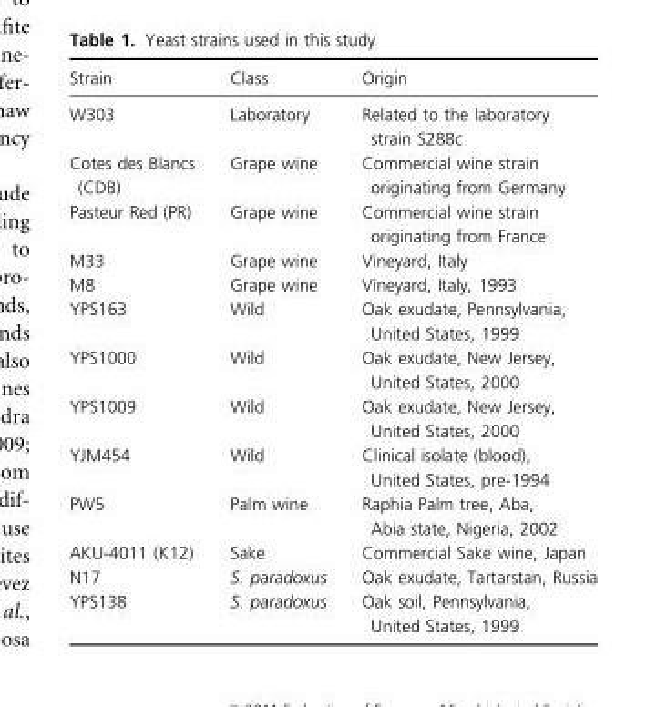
<table><thead><tr><td>Strain</td><td>Class</td><td>Origin</td></tr></thead><tbody><tr><td>W303</td><td>Laboratory</td><td>Related to the laboratory strain S288c</td></tr><tr><td>Cotes des Blancs (CDB)</td><td>Grape wine</td><td>Commercial wine strain originating from Germany</td></tr><tr><td>Pasteur Red (PR)</td><td>Grape wine</td><td>Commercial wine strain originating from France</td></tr><tr><td>M33</td><td>Grape wine</td><td>Vineyard, Italy</td></tr><tr><td>M8</td><td>Grape wine</td><td>Vineyard, Italy, 1993</td></tr><tr><td>YPS163</td><td>Wild</td><td>Oak exudate, Pennsylvania, United States, 1999</td></tr><tr><td>YPS1000</td><td>Wild</td><td>Oak exudate, New Jersey, United States, 2000</td></tr><tr><td>YPS1009</td><td>Wild</td><td>Oak exudate, New Jersey, United States, 2000</td></tr><tr><td>YJM454</td><td>Wild</td><td>Clinical isolate (blood), United States, pre-1994</td></tr><tr><td>PW5</td><td>Palm wine</td><td>Raphia Palm tree, Aba, Abia state, Nigeria, 2002</td></tr><tr><td>AKU-4011 (K12)</td><td>Sake</td><td>Commercial Sake wine, Japan</td></tr><tr><td>N17</td><td>S. paradoxus</td><td>Oak exudate, Tartarstan, Russia</td></tr><tr><td>YPS138</td><td>S. paradoxus</td><td>Oak soil, Pennsylvania, United States, 1999</td></tr></tbody></table>